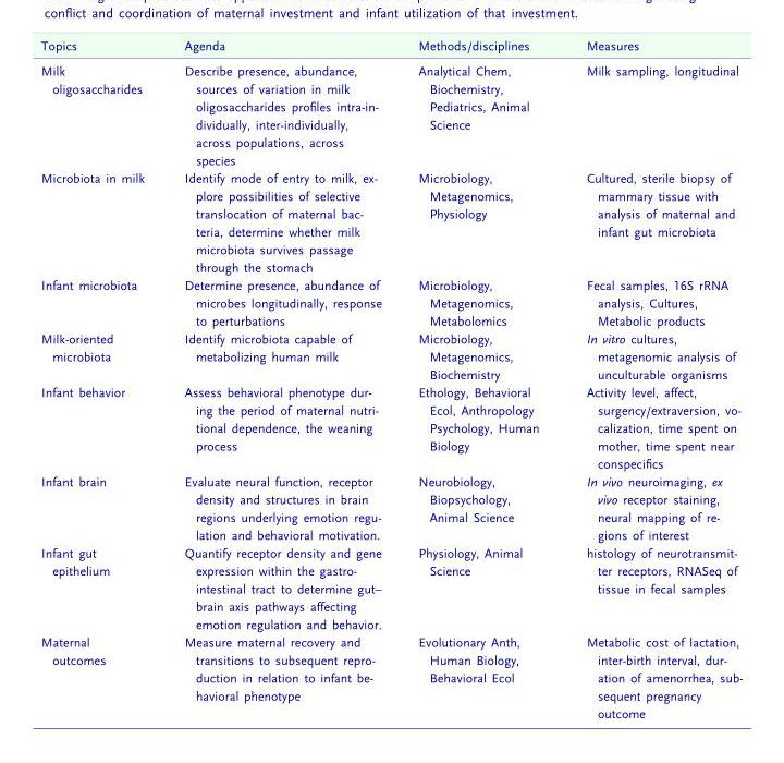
<table><thead><tr><td>Topics</td><td>Agenda</td><td>Methods/disciplines</td><td>Measures</td></tr></thead><tbody><tr><td>Milk oligosaccharides</td><td>Describe presence, abundance, sources of variation in milk oligosaccharides profiles intra-in- dividually, inter-individually, across populations, across species</td><td>Analytical Chem, Biochemistry, Pediatrics, Animal Science</td><td>Milk sampling, longitudinal</td></tr><tr><td>Microbiota in milk</td><td>Identify mode of entry to milk, ex- plore possibilities of selective translocation of maternal bac- teria, determine whether milk microbiota survives passage through the stomach</td><td>Microbiology, Metagenomics, Physiology</td><td>Cultured, sterile biopsy of mammary tissue with analysis of maternal and infant gut microbiota</td></tr><tr><td>Infant microbiota</td><td>Determine presence, abundance of microbes longitudinally, response to perturbations</td><td>Microbiology, Metagenomics, Metabolomics</td><td>Fecal samples, 16S rRNA analysis, Cultures, Metabolic products</td></tr><tr><td>Milk-oriented microbiota</td><td>Identify microbiota capable of metabolizing human milk</td><td>Microbiology, Metagenomics, Biochemistry</td><td>In vitro cultures, metagenomic analysis of unculturable organisms</td></tr><tr><td>Infant behavior</td><td>Assess behavioral phenotype dur- ing the period of maternal nutri- tional dependence, the weaning process</td><td>Ethology, Behavioral Ecol, Anthropology Psychology, Human Biology</td><td>Activity level, affect, surgency/extraversion, vo- calization, time spent on mother, time spent near conspecifics</td></tr><tr><td>Infant brain</td><td>Evaluate neural function, receptor density and structures in brain regions underlying emotion regu- lation and behavioral motivation.</td><td>Neurobiology, Biopsychology, Animal Science</td><td>In vivo neuroimaging, ex vivo receptor staining, neural mapping of re- gions of interest</td></tr><tr><td>Infant gut epithelium</td><td>Quantify receptor density and gene expression within the gastro- intestinal tract to determine gut– brain axis pathways affecting emotion regulation and behavior.</td><td>Physiology, Animal Science</td><td>histology of neurotransmit- ter receptors, RNASeq of tissue in fecal samples</td></tr><tr><td>Maternal outcomes</td><td>Measure maternal recovery and transitions to subsequent repro- duction in relation to infant be- havioral phenotype</td><td>Evolutionary Anth, Human Biology, Behavioral Ecol</td><td>Metabolic cost of lactation, inter-birth interval, dur- ation of amenorrhea, sub- sequent pregnancy outcome</td></tr></tbody></table>